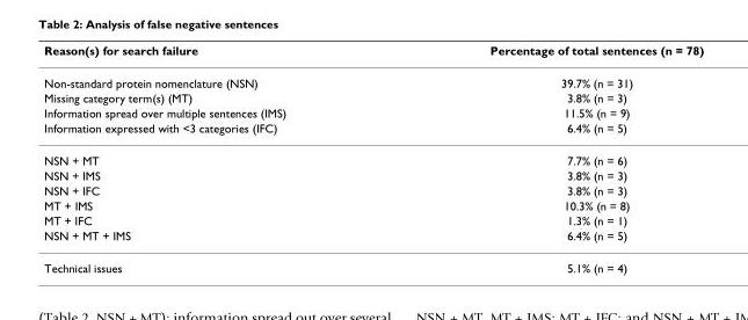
<table><thead><tr><td>Reason(s) for search failure</td><td>Percentage of total sentences (n = 78)</td></tr></thead><tbody><tr><td>Non-standard protein nomenclature (NSN)</td><td>39.7% (n = 31)</td></tr><tr><td>Missing category term(s) (MT)</td><td>3.8% (n = 3)</td></tr><tr><td>Information spread over multiple sentences (IMS)</td><td>11.5% (n = 9)</td></tr><tr><td>Information expressed with &lt;3 categories (IFC)</td><td>6.4% (n = 5)</td></tr><tr><td>NSN + MT</td><td>7.7% (n = 6)</td></tr><tr><td>NSN + IMS</td><td>3.8% (n = 3)</td></tr><tr><td>NSN + IFC</td><td>3.8% (n = 3)</td></tr><tr><td>MT + IMS</td><td>10.3% (n = 8)</td></tr><tr><td>MT + IFC</td><td>1.3% (n = 1)</td></tr><tr><td>NSN + MT + IMS</td><td>6.4% (n = 5)</td></tr><tr><td>Technical issues</td><td>5.1% (n = 4)</td></tr></tbody></table>